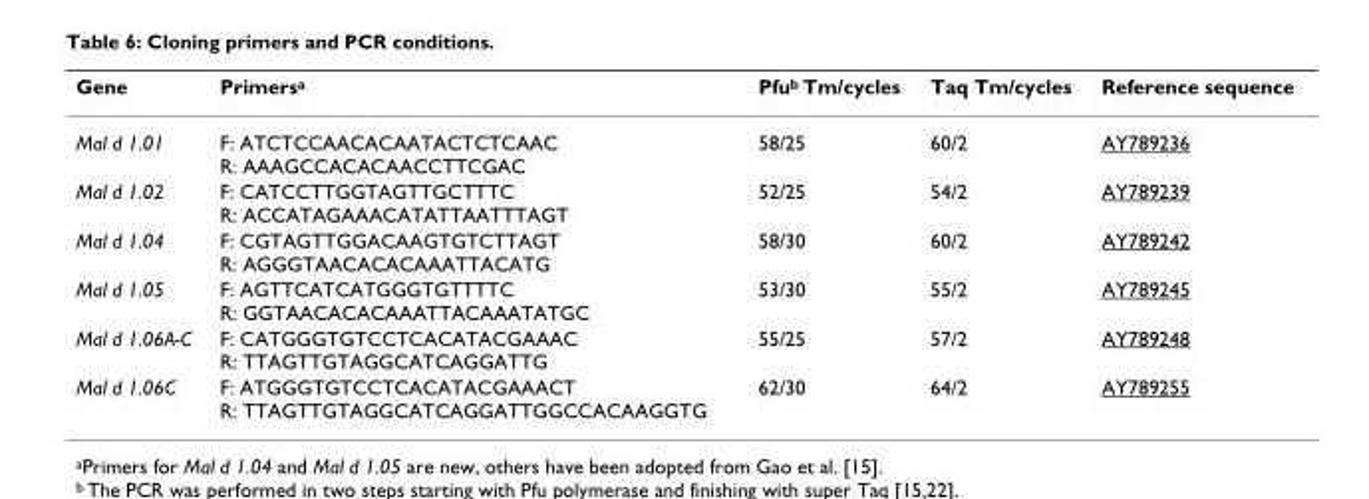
<table><thead><tr><td>Gene</td><td>Primers<sup>a</sup></td><td>Pfu<sup>b</sup> Tm/cycles</td><td>Taq Tm/cycles</td><td>Reference sequence</td></tr></thead><tbody><tr><td>Mal d 1.01</td><td>F: ATCTCCAACACAATACTCTCAAC R: AAAGCCACACAACCTTCGAC</td><td>58/25</td><td>60/2</td><td>AY789236</td></tr><tr><td>Mal d 1.02</td><td>F: CATCCTTGGTAGTTGCTTTC R: ACCATAGAAACATATTAATTTAGT</td><td>52/25</td><td>54/2</td><td>AY789239</td></tr><tr><td>Mal d 1.04</td><td>F: CGTAGTTGGACAAGTGTCTTAGT R: AGGGTAACACACAAATTACATG</td><td>58/30</td><td>60/2</td><td>AY789242</td></tr><tr><td>Mal d 1.05</td><td>F: AGTTCATCATGGGTGTTTTC R: GGTAACACACAAATTACAAATATGC</td><td>53/30</td><td>55/2</td><td>AY789245</td></tr><tr><td>Mal d 1.06A-C</td><td>F: CATGGGTGTCCTCACATACGAAAC R: TTAGTTGTAGGCATCAGGATTG</td><td>55/25</td><td>57/2</td><td>AY789248</td></tr><tr><td>Mal d 1.06C</td><td>F: ATGGGTGTCCTCACATACGAAACT R: TTAGTTGTAGGCATCAGGATTGGCCACAAGGTG</td><td>62/30</td><td>64/2</td><td>AY789255</td></tr></tbody></table>